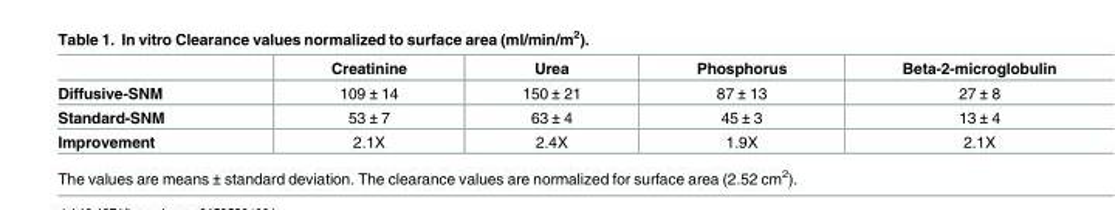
<table><thead><tr><td></td><td>Creatinine</td><td>Urea</td><td>Phosphorus</td><td>Beta-2-microglobulin</td></tr></thead><tbody><tr><td>Diffusive-SNM</td><td>109 ± 14</td><td>150 ± 21</td><td>87 ± 13</td><td>27 ± 8</td></tr><tr><td>Standard-SNM</td><td>53 ± 7</td><td>63 ± 4</td><td>45 ± 3</td><td>13 ± 4</td></tr><tr><td>Improvement</td><td>2.1X</td><td>2.4X</td><td>1.9X</td><td>2.1X</td></tr></tbody></table>